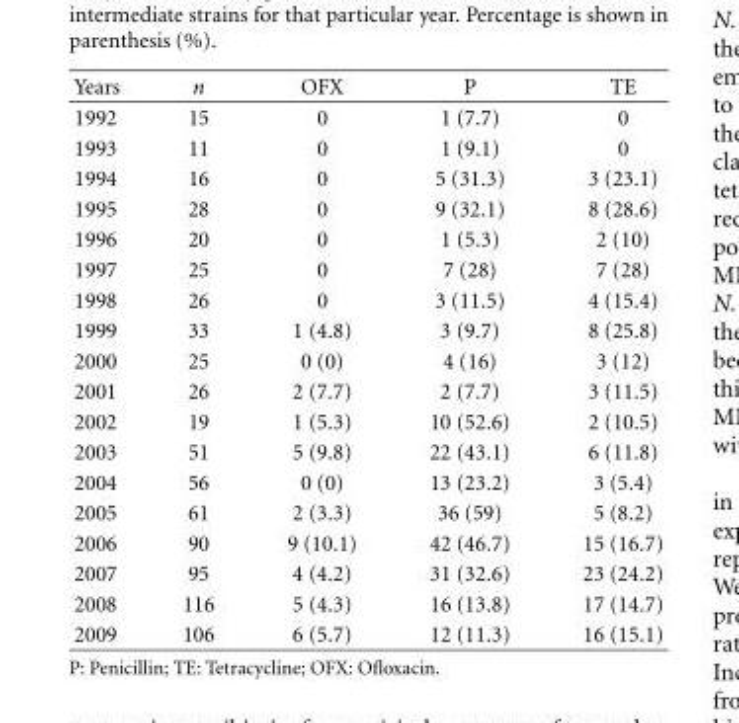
<table><thead><tr><td>Years</td><td>n</td><td>OFX</td><td>P</td><td>TE</td></tr></thead><tbody><tr><td>1992</td><td>15</td><td>0</td><td>1 (7.7)</td><td>0</td></tr><tr><td>1993</td><td>11</td><td>0</td><td>1 (9.1)</td><td>0</td></tr><tr><td>1994</td><td>16</td><td>0</td><td>5 (31.3)</td><td>3 (23.1)</td></tr><tr><td>1995</td><td>28</td><td>0</td><td>9 (32.1)</td><td>8 (28.6)</td></tr><tr><td>1996</td><td>20</td><td>0</td><td>1 (5.3)</td><td>2 (10)</td></tr><tr><td>1997</td><td>25</td><td>0</td><td>7 (28)</td><td>7 (28)</td></tr><tr><td>1998</td><td>26</td><td>0</td><td>3 (11.5)</td><td>4 (15.4)</td></tr><tr><td>1999</td><td>33</td><td>1 (4.8)</td><td>3 (9.7)</td><td>8 (25.8)</td></tr><tr><td>2000</td><td>25</td><td>0 (0)</td><td>4 (16)</td><td>3 (12)</td></tr><tr><td>2001</td><td>26</td><td>2 (7.7)</td><td>2 (7.7)</td><td>3 (11.5)</td></tr><tr><td>2002</td><td>19</td><td>1 (5.3)</td><td>10 (52.6)</td><td>2 (10.5)</td></tr><tr><td>2003</td><td>51</td><td>5 (9.8)</td><td>22 (43.1)</td><td>6 (11.8)</td></tr><tr><td>2004</td><td>56</td><td>0 (0)</td><td>13 (23.2)</td><td>3 (5.4)</td></tr><tr><td>2005</td><td>61</td><td>2 (3.3)</td><td>36 (59)</td><td>5 (8.2)</td></tr><tr><td>2006</td><td>90</td><td>9 (10.1)</td><td>42 (46.7)</td><td>15 (16.7)</td></tr><tr><td>2007</td><td>95</td><td>4 (4.2)</td><td>31 (32.6)</td><td>23 (24.2)</td></tr><tr><td>2008</td><td>116</td><td>5 (4.3)</td><td>16 (13.8)</td><td>17 (14.7)</td></tr><tr><td>2009</td><td>106</td><td>6 (5.7)</td><td>12 (11.3)</td><td>16 (15.1)</td></tr></tbody></table>